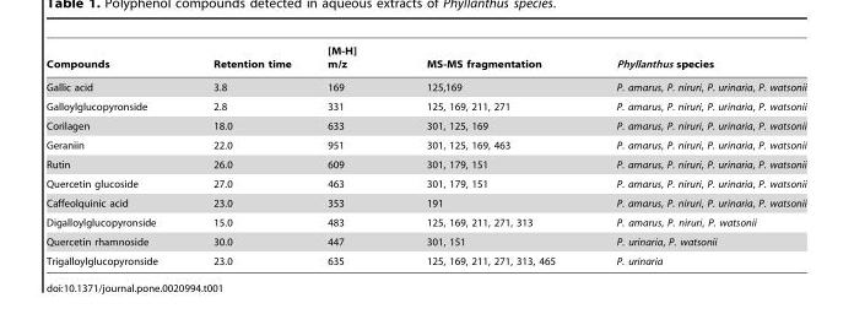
<table><thead><tr><td>Compounds</td><td>Retention time</td><td>[M-H] m/z</td><td>MS-MS fragmentation</td><td>Phyllanthus species</td></tr></thead><tbody><tr><td>Gallic acid</td><td>3.8</td><td>169</td><td>125,169</td><td>P. amarus, P. niruri, P. urinaria, P. watsonii</td></tr><tr><td>Galloylglucopyronside</td><td>2.8</td><td>331</td><td>125, 169, 211, 271</td><td>P. amarus, P. niruri, P. urinaria, P. watsonii</td></tr><tr><td>Corilagen</td><td>18.0</td><td>633</td><td>301, 125, 169</td><td>P. amarus, P. niruri, P. urinaria, P. watsonii</td></tr><tr><td>Geraniin</td><td>22.0</td><td>951</td><td>301, 125, 169, 463</td><td>P. amarus, P. niruri, P. urinaria, P. watsonii</td></tr><tr><td>Rutin</td><td>26.0</td><td>609</td><td>301, 179, 151</td><td>P. amarus, P. niruri, P. urinaria, P. watsonii</td></tr><tr><td>Quercetin glucoside</td><td>27.0</td><td>463</td><td>301, 179, 151</td><td>P. amarus, P. niruri, P. urinaria, P. watsonii</td></tr><tr><td>Caffeolquinic acid</td><td>23.0</td><td>353</td><td>191</td><td>P. amarus, P. niruri, P. urinaria, P. watsonii</td></tr><tr><td>Digalloylglucopyronside</td><td>15.0</td><td>483</td><td>125, 169, 211, 271, 313</td><td>P. amarus, P. niruri, P. watsonii</td></tr><tr><td>Quercetin rhamnoside</td><td>30.0</td><td>447</td><td>301, 151</td><td>P. urinaria, P. watsonii</td></tr><tr><td>Trigalloylglucopyronside</td><td>23.0</td><td>635</td><td>125, 169, 211, 271, 313, 465</td><td>P. urinaria</td></tr></tbody></table>